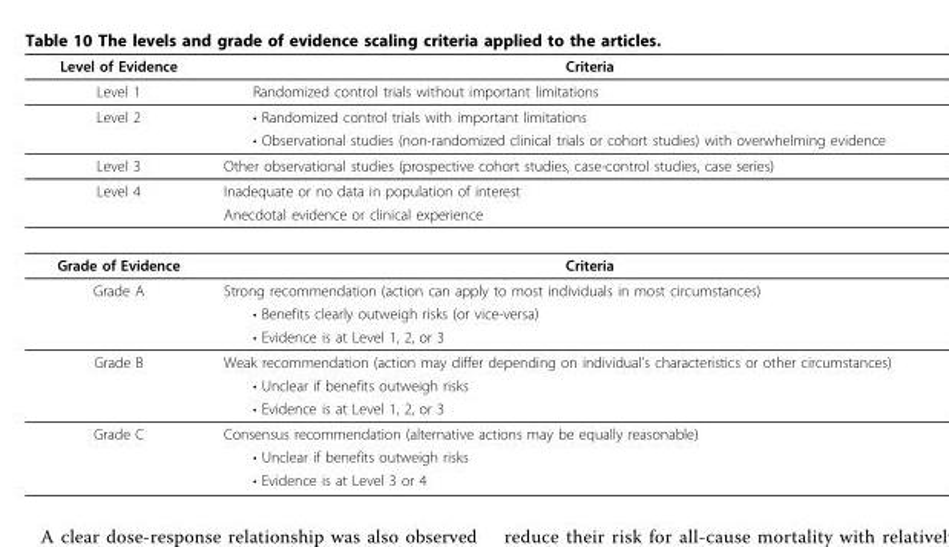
<table><thead><tr><td>Level of Evidence</td><td>Criteria</td></tr></thead><tbody><tr><td>Level 1</td><td>Randomized control trials without important limitations</td></tr><tr><td rowspan="2">Level 2</td><td>• Randomized control trials with important limitations</td></tr><tr><td>• Observational studies (non-randomized clinical trials or cohort studies) with overwhelming evidence</td></tr><tr><td>Level 3</td><td>Other observational studies (prospective cohort studies, case-control studies, case series)</td></tr><tr><td rowspan="2">Level 4</td><td>Inadequate or no data in population of interest</td></tr><tr><td>Anecdotal evidence or clinical experience</td></tr><tr><td>Grade of Evidence</td><td>Criteria</td></tr><tr><td rowspan="3">Grade A</td><td>Strong recommendation (action can apply to most individuals in most circumstances)</td></tr><tr><td>• Benefits clearly outweigh risks (or vice-versa)</td></tr><tr><td>• Evidence is at Level 1, 2, or 3</td></tr><tr><td rowspan="3">Grade B</td><td>Weak recommendation (action may differ depending on individual’s characteristics or other circumstances)</td></tr><tr><td>• Unclear if benefits outweigh risks</td></tr><tr><td>• Evidence is at Level 1, 2, or 3</td></tr><tr><td rowspan="3">Grade C</td><td>Consensus recommendation (alternative actions may be equally reasonable)</td></tr><tr><td>• Unclear if benefits outweigh risks</td></tr><tr><td>• Evidence is at Level 3 or 4</td></tr></tbody></table>